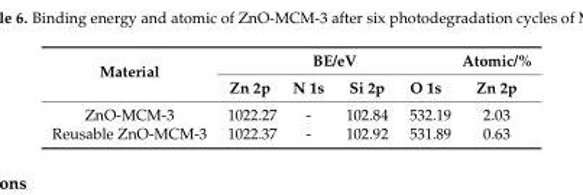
<table><thead><tr><td rowspan="2">Material</td><td colspan="4">BE/eV</td><td rowspan="2">Atomic/% Zn 2p</td></tr><tr><td>Zn 2p</td><td>N 1s</td><td>Si 2p</td><td>O 1s</td></tr></thead><tbody><tr><td>ZnO-MCM-3</td><td>1022.27</td><td>-</td><td>102.84</td><td>532.19</td><td>2.03</td></tr><tr><td>Reusable ZnO-MCM-3</td><td>1022.37</td><td>-</td><td>102.92</td><td>531.89</td><td>0.63</td></tr></tbody></table>